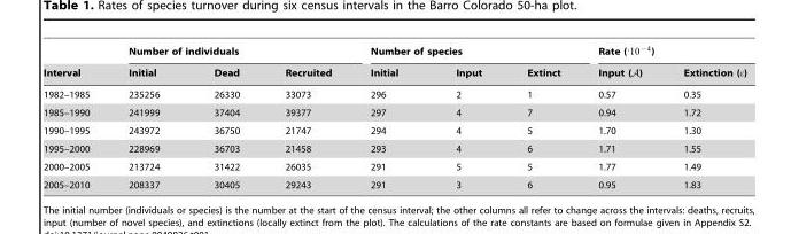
<table><thead><tr><td rowspan="2">Interval</td><td colspan="3">Number of individuals</td><td colspan="3">Number of species</td><td colspan="2">Rate (:10{4)</td></tr><tr><td>Initial</td><td>Dead</td><td>Recruited</td><td>Initial</td><td>Input</td><td>Extinct</td><td>Input (A)</td><td>Extinction (e)</td></tr></thead><tbody><tr><td>1982–1985</td><td>235256</td><td>26330</td><td>33073</td><td>296</td><td>2</td><td>1</td><td>0.57</td><td>0.35</td></tr><tr><td>1985–1990</td><td>241999</td><td>37404</td><td>39377</td><td>297</td><td>4</td><td>7</td><td>0.94</td><td>1.72</td></tr><tr><td>1990–1995</td><td>243972</td><td>36750</td><td>21747</td><td>294</td><td>4</td><td>5</td><td>1.70</td><td>1.30</td></tr><tr><td>1995–2000</td><td>228969</td><td>36703</td><td>21458</td><td>293</td><td>4</td><td>6</td><td>1.71</td><td>1.55</td></tr><tr><td>2000–2005</td><td>213724</td><td>31422</td><td>26035</td><td>291</td><td>5</td><td>5</td><td>1.77</td><td>1.49</td></tr><tr><td>2005–2010</td><td>208337</td><td>30405</td><td>29243</td><td>291</td><td>3</td><td>6</td><td>0.95</td><td>1.83</td></tr></tbody></table>